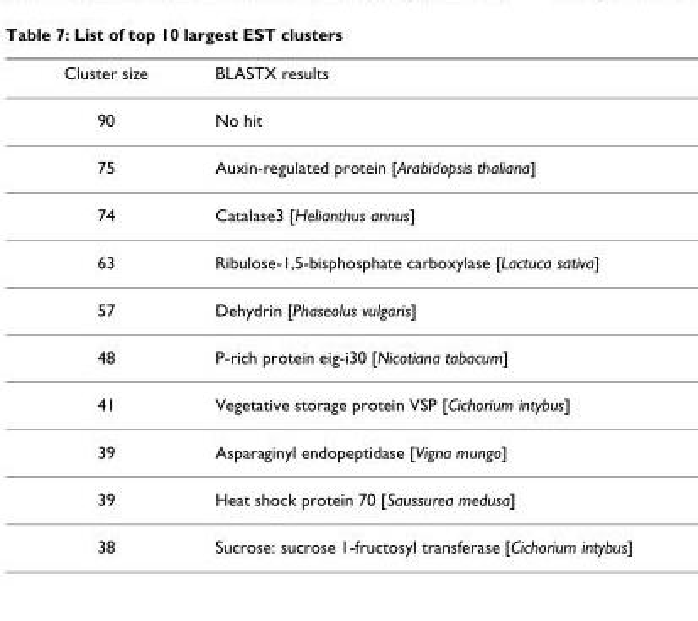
<table><thead><tr><td>Cluster size</td><td>BLASTX results</td></tr></thead><tbody><tr><td>90</td><td>No hit</td></tr><tr><td>75</td><td>Auxin-regulated protein [Arabidopsis thaliana]</td></tr><tr><td>74</td><td>Catalase3 [Helianthus annus]</td></tr><tr><td>63</td><td>Ribulose-1,5-bisphosphate carboxylase [Lactuca sativa]</td></tr><tr><td>57</td><td>Dehydrin [Phaseolus vulgaris]</td></tr><tr><td>48</td><td>P-rich protein eig-i30 [Nicotiana tabacum]</td></tr><tr><td>41</td><td>Vegetative storage protein VSP [Cichorium intybus]</td></tr><tr><td>39</td><td>Asparaginyl endopeptidase [Vigna mungo]</td></tr><tr><td>39</td><td>Heat shock protein 70 [Saussurea medusa]</td></tr><tr><td>38</td><td>Sucrose: sucrose 1-fructosyl transferase [Cichorium intybus]</td></tr></tbody></table>